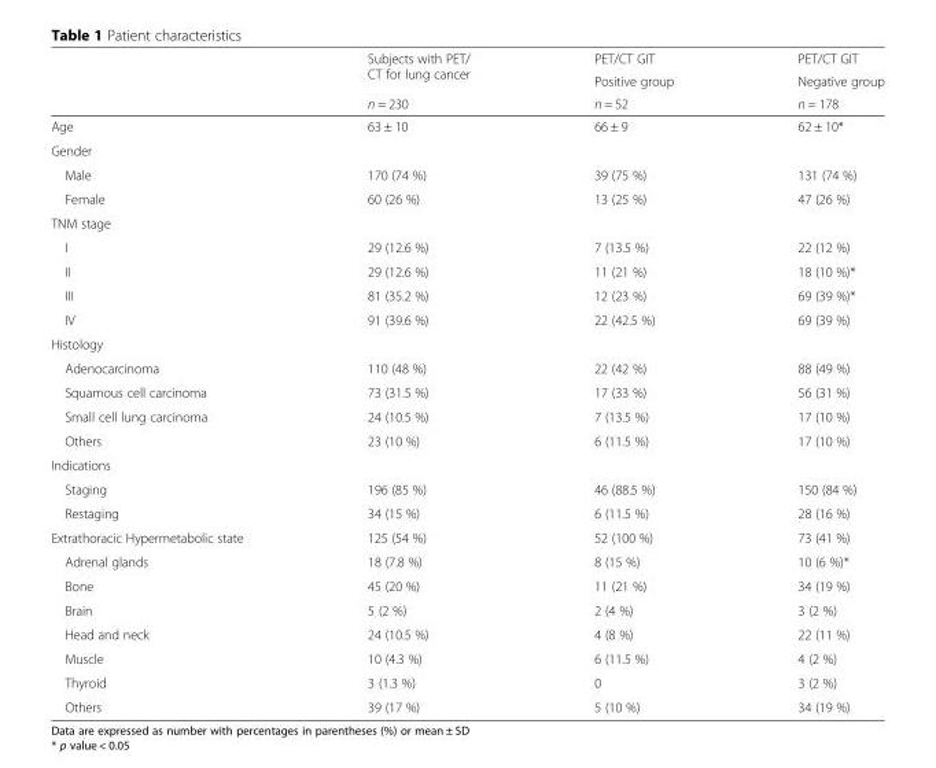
<table><thead><tr><td rowspan="3"></td><td rowspan="3">Subjects with PET/ CT for lung cancer n = 230</td><td rowspan="3">PET/CT GIT Positive group n = 52</td><td rowspan="3">PET/CT GIT Negative group n = 178</td></tr><tr></tr><tr></tr></thead><tbody><tr><td>Age</td><td>63 ± 10</td><td>66 ± 9</td><td>62 ± 10*</td></tr><tr><td colspan="4">Gender</td></tr><tr><td>Male</td><td>170 (74 %)</td><td>39 (75 %)</td><td>131 (74 %)</td></tr><tr><td>Female</td><td>60 (26 %)</td><td>13 (25 %)</td><td>47 (26 %)</td></tr><tr><td colspan="4">TNM stage</td></tr><tr><td>I</td><td>29 (12.6 %)</td><td>7 (13.5 %)</td><td>22 (12 %)</td></tr><tr><td>II</td><td>29 (12.6 %)</td><td>11 (21 %)</td><td>18 (10 %)*</td></tr><tr><td>III</td><td>81 (35.2 %)</td><td>12 (23 %)</td><td>69 (39 %)*</td></tr><tr><td>IV</td><td>91 (39.6 %)</td><td>22 (42.5 %)</td><td>69 (39 %)</td></tr><tr><td colspan="4">Histology</td></tr><tr><td>Adenocarcinoma</td><td>110 (48 %)</td><td>22 (42 %)</td><td>88 (49 %)</td></tr><tr><td>Squamous cell carcinoma</td><td>73 (31.5 %)</td><td>17 (33 %)</td><td>56 (31 %)</td></tr><tr><td>Small cell lung carcinoma</td><td>24 (10.5 %)</td><td>7 (13.5 %)</td><td>17 (10 %)</td></tr><tr><td>Others</td><td>23 (10 %)</td><td>6 (11.5 %)</td><td>17 (10 %)</td></tr><tr><td colspan="4">Indications</td></tr><tr><td>Staging</td><td>196 (85 %)</td><td>46 (88.5 %)</td><td>150 (84 %)</td></tr><tr><td>Restaging</td><td>34 (15 %)</td><td>6 (11.5 %)</td><td>28 (16 %)</td></tr><tr><td>Extrathoracic Hypermetabolic state</td><td>125 (54 %)</td><td>52 (100 %)</td><td>73 (41 %)</td></tr><tr><td>Adrenal glands</td><td>18 (7.8 %)</td><td>8 (15 %)</td><td>10 (6 %)*</td></tr><tr><td>Bone</td><td>45 (20 %)</td><td>11 (21 %)</td><td>34 (19 %)</td></tr><tr><td>Brain</td><td>5 (2 %)</td><td>2 (4 %)</td><td>3 (2 %)</td></tr><tr><td>Head and neck</td><td>24 (10.5 %)</td><td>4 (8 %)</td><td>22 (11 %)</td></tr><tr><td>Muscle</td><td>10 (4.3 %)</td><td>6 (11.5 %)</td><td>4 (2 %)</td></tr><tr><td>Thyroid</td><td>3 (1.3 %)</td><td>0</td><td>3 (2 %)</td></tr><tr><td>Others</td><td>39 (17 %)</td><td>5 (10 %)</td><td>34 (19 %)</td></tr></tbody></table>